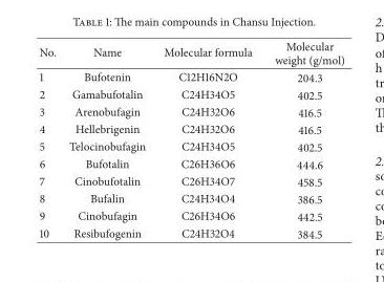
<table><thead><tr><td>No.</td><td>Name</td><td>Molecular formula</td><td>Molecular weight (g/mol)</td></tr></thead><tbody><tr><td>1</td><td>Bufotenin</td><td>C12H16N2O</td><td>204.3</td></tr><tr><td>2</td><td>Gamabufotalin</td><td>C24H34O5</td><td>402.5</td></tr><tr><td>3</td><td>Arenobufagin</td><td>C24H32O6</td><td>416.5</td></tr><tr><td>4</td><td>Hellebrigenin</td><td>C24H32O6</td><td>416.5</td></tr><tr><td>5</td><td>Telocinobufagin</td><td>C24H34O5</td><td>402.5</td></tr><tr><td>6</td><td>Bufotalin</td><td>C26H36O6</td><td>444.6</td></tr><tr><td>7</td><td>Cinobufotalin</td><td>C26H34O7</td><td>458.5</td></tr><tr><td>8</td><td>Bufalin</td><td>C24H34O4</td><td>386.5</td></tr><tr><td>9</td><td>Cinobufagin</td><td>C26H34O6</td><td>442.5</td></tr><tr><td>10</td><td>Resibufogenin</td><td>C24H32O4</td><td>384.5</td></tr></tbody></table>